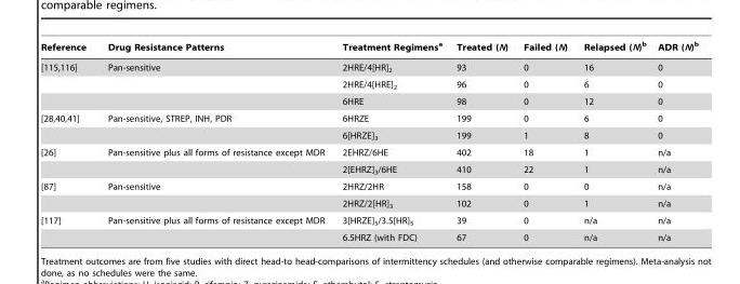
<table><thead><tr><td>Reference</td><td>Drug Resistance Patterns</td><td>Treatment Regimensa</td><td>Treated (N)</td><td>Failed (N)</td><td>Relapsed (N)<sup>b</sup></td><td>ADR (N)<sup>b</sup></td></tr></thead><tbody><tr><td rowspan="3">[115,116]</td><td>Pan-sensitive</td><td>2HRE/4[HR]<sub>2</sub></td><td>93</td><td>0</td><td>16</td><td>0</td></tr><tr><td></td><td>2HRE/4[HRE]<sub>2</sub></td><td>96</td><td>0</td><td>6</td><td>0</td></tr><tr><td></td><td>6HRE</td><td>98</td><td>0</td><td>12</td><td>0</td></tr><tr><td rowspan="2">[28,40,41]</td><td>Pan-sensitive, STREP, INH, PDR</td><td>6HRZE</td><td>199</td><td>0</td><td>6</td><td>0</td></tr><tr><td></td><td>6[HRZE]<sub>3</sub></td><td>199</td><td>1</td><td>8</td><td>0</td></tr><tr><td rowspan="2">[26]</td><td>Pan-sensitive plus all forms of resistance except MDR</td><td>2EHRZ/6HE</td><td>402</td><td>18</td><td>1</td><td>n/a</td></tr><tr><td></td><td>2[EHRZ]<sub>3</sub>/6HE</td><td>410</td><td>22</td><td>1</td><td>n/a</td></tr><tr><td rowspan="2">[87]</td><td>Pan-sensitive</td><td>2HRZ/2HR</td><td>158</td><td>0</td><td>0</td><td>n/a</td></tr><tr><td></td><td>2HRZ/2[HR]<sub>3</sub></td><td>102</td><td>0</td><td>1</td><td>n/a</td></tr><tr><td rowspan="2">[117]</td><td>Pan-sensitive plus all forms of resistance except MDR</td><td>3[HRZE]<sub>5</sub>/3.5[HR]<sub>5</sub></td><td>39</td><td>0</td><td>n/a</td><td>n/a</td></tr><tr><td></td><td>6.5HRZ (with FDC)</td><td>67</td><td>0</td><td>n/a</td><td>n/a</td></tr></tbody></table>